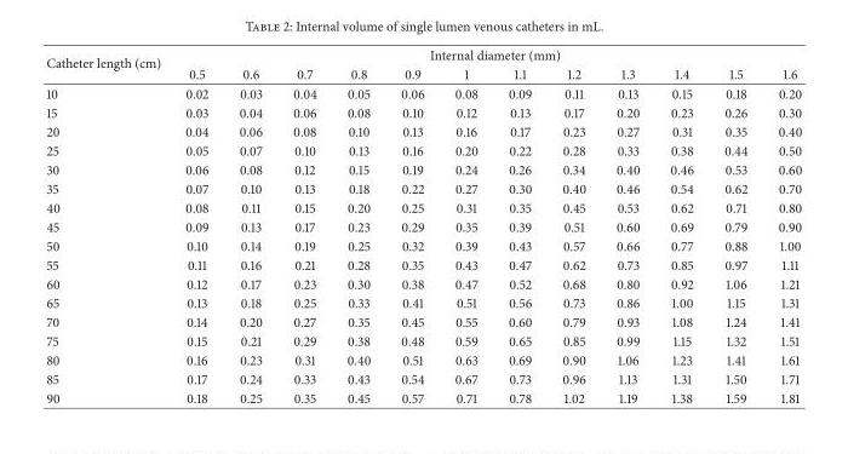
<table><thead><tr><td rowspan="2">Catheter length (cm)</td><td colspan="12">Internal diameter (mm)</td></tr><tr><td>0.5</td><td>0.6</td><td>0.7</td><td>0.8</td><td>0.9</td><td>1</td><td>1.1</td><td>1.2</td><td>1.3</td><td>1.4</td><td>1.5</td><td>1.6</td></tr></thead><tbody><tr><td>10</td><td>0.02</td><td>0.03</td><td>0.04</td><td>0.05</td><td>0.06</td><td>0.08</td><td>0.09</td><td>0.11</td><td>0.13</td><td>0.15</td><td>0.18</td><td>0.20</td></tr><tr><td>15</td><td>0.03</td><td>0.04</td><td>0.06</td><td>0.08</td><td>0.10</td><td>0.12</td><td>0.13</td><td>0.17</td><td>0.20</td><td>0.23</td><td>0.26</td><td>0.30</td></tr><tr><td>20</td><td>0.04</td><td>0.06</td><td>0.08</td><td>0.10</td><td>0.13</td><td>0.16</td><td>0.17</td><td>0.23</td><td>0.27</td><td>0.31</td><td>0.35</td><td>0.40</td></tr><tr><td>25</td><td>0.05</td><td>0.07</td><td>0.10</td><td>0.13</td><td>0.16</td><td>0.20</td><td>0.22</td><td>0.28</td><td>0.33</td><td>0.38</td><td>0.44</td><td>0.50</td></tr><tr><td>30</td><td>0.06</td><td>0.08</td><td>0.12</td><td>0.15</td><td>0.19</td><td>0.24</td><td>0.26</td><td>0.34</td><td>0.40</td><td>0.46</td><td>0.53</td><td>0.60</td></tr><tr><td>35</td><td>0.07</td><td>0.10</td><td>0.13</td><td>0.18</td><td>0.22</td><td>0.27</td><td>0.30</td><td>0.40</td><td>0.46</td><td>0.54</td><td>0.62</td><td>0.70</td></tr><tr><td>40</td><td>0.08</td><td>0.11</td><td>0.15</td><td>0.20</td><td>0.25</td><td>0.31</td><td>0.35</td><td>0.45</td><td>0.53</td><td>0.62</td><td>0.71</td><td>0.80</td></tr><tr><td>45</td><td>0.09</td><td>0.13</td><td>0.17</td><td>0.23</td><td>0.29</td><td>0.35</td><td>0.39</td><td>0.51</td><td>0.60</td><td>0.69</td><td>0.79</td><td>0.90</td></tr><tr><td>50</td><td>0.10</td><td>0.14</td><td>0.19</td><td>0.25</td><td>0.32</td><td>0.39</td><td>0.43</td><td>0.57</td><td>0.66</td><td>0.77</td><td>0.88</td><td>1.00</td></tr><tr><td>55</td><td>0.11</td><td>0.16</td><td>0.21</td><td>0.28</td><td>0.35</td><td>0.43</td><td>0.47</td><td>0.62</td><td>0.73</td><td>0.85</td><td>0.97</td><td>1.11</td></tr><tr><td>60</td><td>0.12</td><td>0.17</td><td>0.23</td><td>0.30</td><td>0.38</td><td>0.47</td><td>0.52</td><td>0.68</td><td>0.80</td><td>0.92</td><td>1.06</td><td>1.21</td></tr><tr><td>65</td><td>0.13</td><td>0.18</td><td>0.25</td><td>0.33</td><td>0.41</td><td>0.51</td><td>0.56</td><td>0.73</td><td>0.86</td><td>1.00</td><td>1.15</td><td>1.31</td></tr><tr><td>70</td><td>0.14</td><td>0.20</td><td>0.27</td><td>0.35</td><td>0.45</td><td>0.55</td><td>0.60</td><td>0.79</td><td>0.93</td><td>1.08</td><td>1.24</td><td>1.41</td></tr><tr><td>75</td><td>0.15</td><td>0.21</td><td>0.29</td><td>0.38</td><td>0.48</td><td>0.59</td><td>0.65</td><td>0.85</td><td>0.99</td><td>1.15</td><td>1.32</td><td>1.51</td></tr><tr><td>80</td><td>0.16</td><td>0.23</td><td>0.31</td><td>0.40</td><td>0.51</td><td>0.63</td><td>0.69</td><td>0.90</td><td>1.06</td><td>1.23</td><td>1.41</td><td>1.61</td></tr><tr><td>85</td><td>0.17</td><td>0.24</td><td>0.33</td><td>0.43</td><td>0.54</td><td>0.67</td><td>0.73</td><td>0.96</td><td>1.13</td><td>1.31</td><td>1.50</td><td>1.71</td></tr><tr><td>90</td><td>0.18</td><td>0.25</td><td>0.35</td><td>0.45</td><td>0.57</td><td>0.71</td><td>0.78</td><td>1.02</td><td>1.19</td><td>1.38</td><td>1.59</td><td>1.81</td></tr></tbody></table>